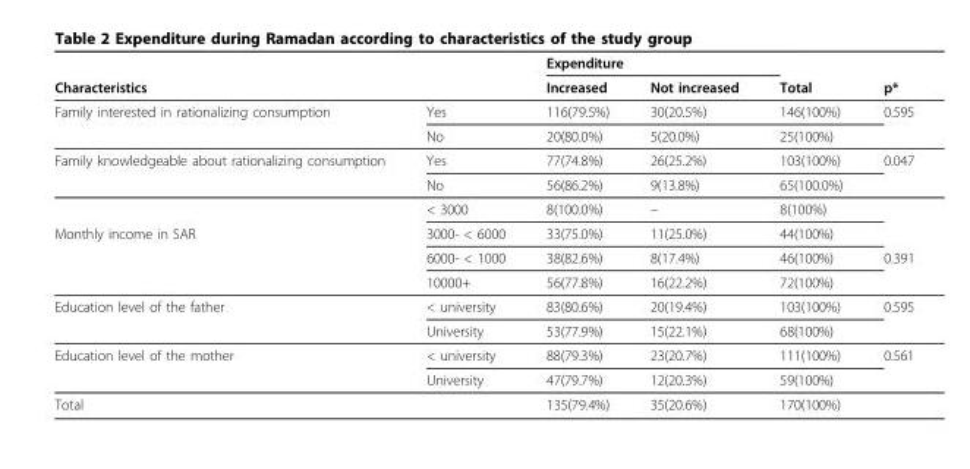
<table><thead><tr><td></td><td></td><td colspan="2">Expenditure</td><td rowspan="2">Total</td><td rowspan="2">p*</td></tr><tr><td colspan="2">Characteristics</td><td>Increased</td><td>Not increased</td></tr></thead><tbody><tr><td rowspan="2">Family interested in rationalizing consumption</td><td>Yes</td><td>116(79.5%)</td><td>30(20.5%)</td><td>146(100%)</td><td>0.595</td></tr><tr><td>No</td><td>20(80.0%)</td><td>5(20.0%)</td><td>25(100%)</td><td></td></tr><tr><td rowspan="3">Family knowledgeable about rationalizing consumption</td><td>Yes</td><td>77(74.8%)</td><td>26(25.2%)</td><td>103(100%)</td><td>0.047</td></tr><tr><td>No</td><td>56(86.2%)</td><td>9(13.8%)</td><td>65(100.0%)</td><td></td></tr><tr><td>&lt; 3000</td><td>8(100.0%)</td><td>–</td><td>8(100%)</td><td></td></tr><tr><td rowspan="3">Monthly income in SAR</td><td>3000- &lt; 6000</td><td>33(75.0%)</td><td>11(25.0%)</td><td>44(100%)</td><td></td></tr><tr><td>6000- &lt; 1000</td><td>38(82.6%)</td><td>8(17.4%)</td><td>46(100%)</td><td>0.391</td></tr><tr><td>10000+</td><td>56(77.8%)</td><td>16(22.2%)</td><td>72(100%)</td><td></td></tr><tr><td rowspan="2">Education level of the father</td><td>&lt; university</td><td>83(80.6%)</td><td>20(19.4%)</td><td>103(100%)</td><td>0.595</td></tr><tr><td>University</td><td>53(77.9%)</td><td>15(22.1%)</td><td>68(100%)</td><td></td></tr><tr><td rowspan="2">Education level of the mother</td><td>&lt; university</td><td>88(79.3%)</td><td>23(20.7%)</td><td>111(100%)</td><td>0.561</td></tr><tr><td>University</td><td>47(79.7%)</td><td>12(20.3%)</td><td>59(100%)</td><td></td></tr><tr><td colspan="2">Total</td><td>135(79.4%)</td><td>35(20.6%)</td><td>170(100%)</td><td></td></tr></tbody></table>